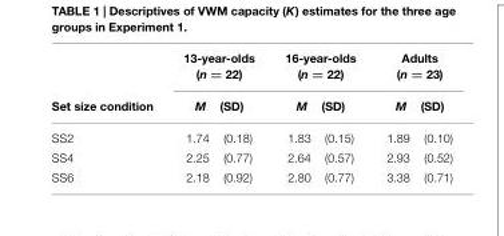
<table><thead><tr><td rowspan="2">Set size condition</td><td colspan="2">13-year-olds (n = 22)</td><td colspan="2">16-year-olds (n = 22)</td><td colspan="2">Adults (n = 23)</td></tr><tr><td>M</td><td>(SD)</td><td>M</td><td>(SD)</td><td>M</td><td>(SD)</td></tr></thead><tbody><tr><td>SS2</td><td>1.74</td><td>(0.18)</td><td>1.83</td><td>(0.15)</td><td>1.89</td><td>(0.10)</td></tr><tr><td>SS4</td><td>2.25</td><td>(0.77)</td><td>2.64</td><td>(0.57)</td><td>2.93</td><td>(0.52)</td></tr><tr><td>SS6</td><td>2.18</td><td>(0.92)</td><td>2.80</td><td>(0.77)</td><td>3.38</td><td>(0.71)</td></tr></tbody></table>